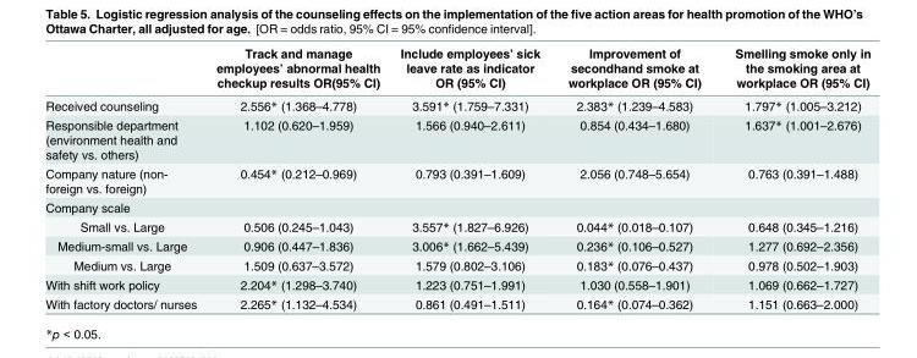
<table><thead><tr><td></td><td>Track and manage employees’ abnormal health checkup results OR(95% CI)</td><td>Include employees’ sick leave rate as indicator OR (95% CI)</td><td>Improvement of secondhand smoke at workplace OR (95% CI)</td><td>Smelling smoke only in the smoking area at workplace OR (95% CI)</td></tr></thead><tbody><tr><td>Received counseling</td><td>2.556* (1.368–4.778)</td><td>3.591* (1.759–7.331)</td><td>2.383* (1.239–4.583)</td><td>1.797* (1.005–3.212)</td></tr><tr><td>Responsible department (environment health and safety vs. others)</td><td>1.102 (0.620–1.959)</td><td>1.566 (0.940–2.611)</td><td>0.854 (0.434–1.680)</td><td>1.637* (1.001–2.676)</td></tr><tr><td>Company nature (non- foreign vs. foreign)</td><td>0.454* (0.212–0.969)</td><td>0.793 (0.391–1.609)</td><td>2.056 (0.748–5.654)</td><td>0.763 (0.391–1.488)</td></tr><tr><td colspan="5">Company scale</td></tr><tr><td>Small vs. Large</td><td>0.506 (0.245–1.043)</td><td>3.557* (1.827–6.926)</td><td>0.044* (0.018–0.107)</td><td>0.648 (0.345–1.216)</td></tr><tr><td>Medium-small vs. Large</td><td>0.906 (0.447–1.836)</td><td>3.006* (1.662–5.439)</td><td>0.236* (0.106–0.527)</td><td>1.277 (0.692–2.356)</td></tr><tr><td>Medium vs. Large</td><td>1.509 (0.637–3.572)</td><td>1.579 (0.802–3.106)</td><td>0.183* (0.076–0.437)</td><td>0.978 (0.502–1.903)</td></tr><tr><td>With shift work policy</td><td>2.204* (1.298–3.740)</td><td>1.223 (0.751–1.991)</td><td>1.030 (0.558–1.901)</td><td>1.069 (0.662–1.727)</td></tr><tr><td>With factory doctors/ nurses</td><td>2.265* (1.132–4.534)</td><td>0.861 (0.491–1.511)</td><td>0.164* (0.074–0.362)</td><td>1.151 (0.663–2.000)</td></tr></tbody></table>